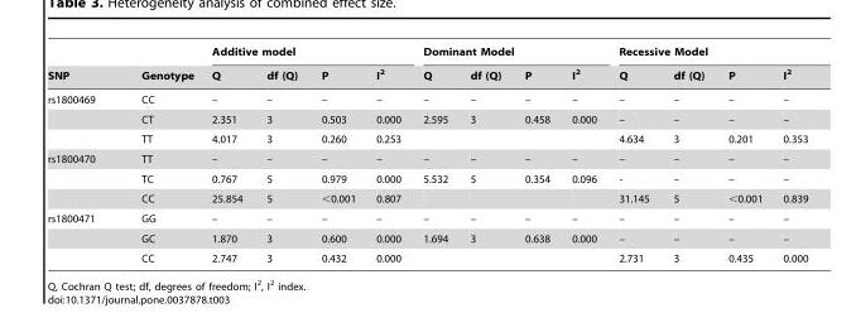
<table><thead><tr><td rowspan="2">SNP</td><td rowspan="2">Genotype</td><td colspan="4">Additive model</td><td colspan="4">Dominant Model</td><td colspan="4">Recessive Model</td></tr><tr><td>Q</td><td>df (Q)</td><td>P</td><td>I<sup>2</sup></td><td>Q</td><td>df (Q)</td><td>P</td><td>I<sup>2</sup></td><td>Q</td><td>df (Q)</td><td>P</td><td>I<sup>2</sup></td></tr></thead><tbody><tr><td rowspan="3">rs1800469</td><td>CC</td><td>–</td><td>–</td><td>–</td><td>–</td><td>–</td><td>–</td><td>–</td><td>–</td><td>–</td><td>–</td><td>–</td><td>–</td></tr><tr><td>CT</td><td>2.351</td><td>3</td><td>0.503</td><td>0.000</td><td>2.595</td><td>3</td><td>0.458</td><td>0.000</td><td>–</td><td>–</td><td>–</td><td>–</td></tr><tr><td>TT</td><td>4.017</td><td>3</td><td>0.260</td><td>0.253</td><td></td><td></td><td></td><td></td><td>4.634</td><td>3</td><td>0.201</td><td>0.353</td></tr><tr><td rowspan="3">rs1800470</td><td>TT</td><td>–</td><td>–</td><td>–</td><td>–</td><td>–</td><td>–</td><td>–</td><td>–</td><td>–</td><td>–</td><td>–</td><td>–</td></tr><tr><td>TC</td><td>0.767</td><td>5</td><td>0.979</td><td>0.000</td><td>5.532</td><td>5</td><td>0.354</td><td>0.096</td><td>-</td><td>–</td><td>–</td><td>–</td></tr><tr><td>CC</td><td>25.854</td><td>5</td><td>&lt;0.001</td><td>0.807</td><td></td><td></td><td></td><td></td><td>31.145</td><td>5</td><td>&lt;0.001</td><td>0.839</td></tr><tr><td rowspan="3">rs1800471</td><td>GG</td><td>–</td><td>–</td><td>–</td><td>–</td><td>–</td><td>–</td><td>–</td><td>–</td><td>–</td><td>–</td><td>–</td><td>–</td></tr><tr><td>GC</td><td>1.870</td><td>3</td><td>0.600</td><td>0.000</td><td>1.694</td><td>3</td><td>0.638</td><td>0.000</td><td>–</td><td>–</td><td>–</td><td>–</td></tr><tr><td>CC</td><td>2.747</td><td>3</td><td>0.432</td><td>0.000</td><td></td><td></td><td></td><td></td><td>2.731</td><td>3</td><td>0.435</td><td>0.000</td></tr></tbody></table>